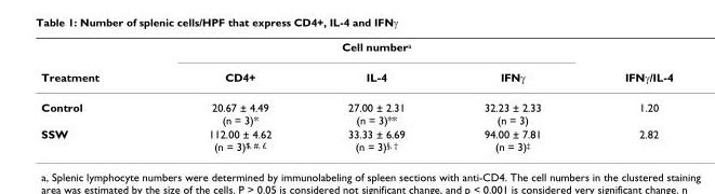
<table><thead><tr><td rowspan="2">Treatment</td><td colspan="3">Cell number<sup>a</sup></td><td rowspan="2">IFNγ/IL-4</td></tr><tr><td>CD4+</td><td>IL-4</td><td>IFNγ</td></tr></thead><tbody><tr><td>Control</td><td>20.67 ± 4.49 (n = 3)*</td><td>27.00 ± 2.31 (n = 3)**</td><td>32.23 ± 2.33 (n = 3)</td><td>1.20</td></tr><tr><td>SSW</td><td>112.00 ± 4.62 (n = 3)<sup>$, #, £</sup></td><td>33.33 ± 6.69 (n = 3)<sup>§, †</sup></td><td>94.00 ± 7.81 (n = 3)<sup>‡</sup></td><td>2.82</td></tr></tbody></table>